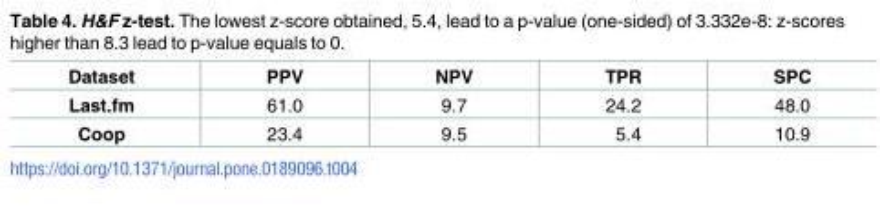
<table><thead><tr><td>Dataset</td><td>PPV</td><td>NPV</td><td>TPR</td><td>SPC</td></tr></thead><tbody><tr><td>Last.fm</td><td>61.0</td><td>9.7</td><td>24.2</td><td>48.0</td></tr><tr><td>Coop</td><td>23.4</td><td>9.5</td><td>5.4</td><td>10.9</td></tr></tbody></table>